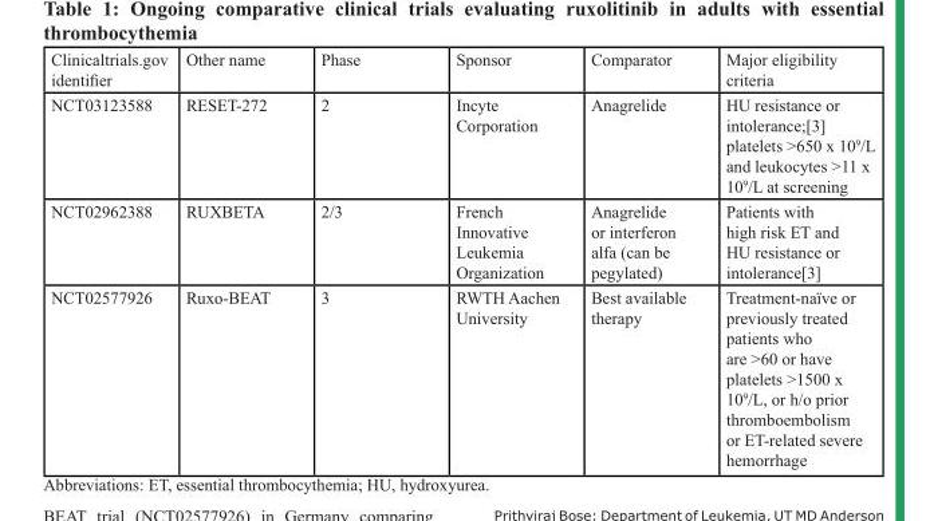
<table><thead><tr><td>Clinicaltrials.gov identifier</td><td>Other name</td><td>Phase</td><td>Sponsor</td><td>Comparator</td><td>Major eligibility criteria</td></tr></thead><tbody><tr><td>NCT03123588</td><td>RESET-272</td><td>2</td><td>Incyte Corporation</td><td>Anagrelide</td><td>HU resistance or intolerance;[3] platelets &gt;650 x 109/L and leukocytes &gt;11 x 109/L at screening</td></tr><tr><td>NCT02962388</td><td>RUXBETA</td><td>2/3</td><td>French Innovative Leukemia Organization</td><td>Anagrelide or interferon alfa (can be pegylated)</td><td>Patients with high risk ET and HU resistance or intolerance[3]</td></tr><tr><td>NCT02577926</td><td>Ruxo-BEAT</td><td>3</td><td>RWTH Aachen University</td><td>Best available therapy</td><td>Treatment-naïve or previously treated patients who are &gt;60 or have platelets &gt;1500 x 109/L, or h/o prior thromboembolism or ET-related severe hemorrhage</td></tr></tbody></table>